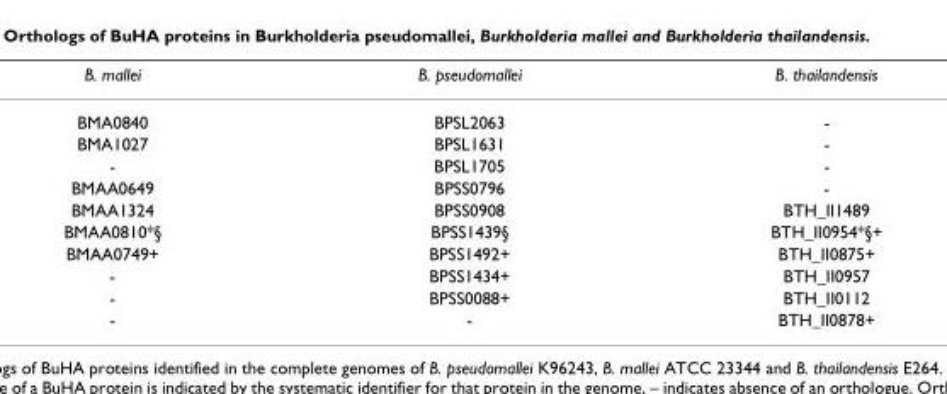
<table><thead><tr><td>B. mallei</td><td>B. pseudomallei</td><td>B. thailandensis</td></tr></thead><tbody><tr><td>BMA0840</td><td>BPSL2063</td><td>-</td></tr><tr><td>BMA1027</td><td>BPSL1631</td><td>-</td></tr><tr><td>-</td><td>BPSL1705</td><td>-</td></tr><tr><td>BMAA0649</td><td>BPSS0796</td><td>-</td></tr><tr><td>BMAA1324</td><td>BPSS0908</td><td>BTH_II1489</td></tr><tr><td>BMAA0810*§</td><td>BPSS1439§</td><td>BTH_II0954*§+</td></tr><tr><td>BMAA0749+</td><td>BPSS1492+</td><td>BTH_II0875+</td></tr><tr><td>-</td><td>BPSS1434+</td><td>BTH_II0957</td></tr><tr><td>-</td><td>BPSS0088+</td><td>BTH_II0112</td></tr><tr><td>-</td><td>-</td><td>BTH_II0878+</td></tr></tbody></table>